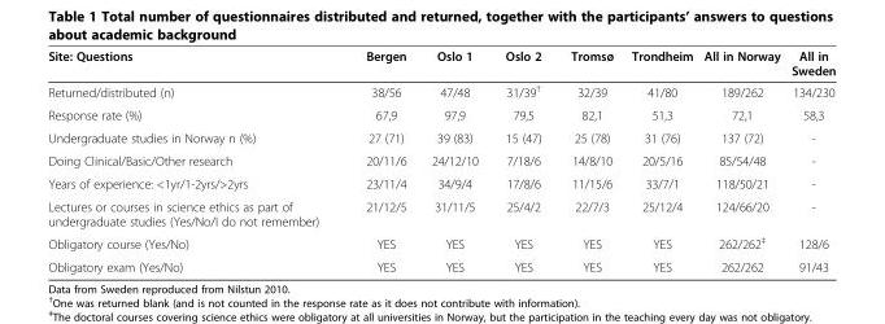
<table><thead><tr><td>Site: Questions</td><td>Bergen</td><td>Oslo 1</td><td>Oslo 2</td><td>Tromsø</td><td>Trondheim</td><td>All in Norway</td><td>All in Sweden</td></tr></thead><tbody><tr><td>Returned/distributed (n)</td><td>38/56</td><td>47/48</td><td>31/39<sup>†</sup></td><td>32/39</td><td>41/80</td><td>189/262</td><td>134/230</td></tr><tr><td>Response rate (%)</td><td>67,9</td><td>97,9</td><td>79,5</td><td>82,1</td><td>51,3</td><td>72,1</td><td>58,3</td></tr><tr><td>Undergraduate studies in Norway n (%)</td><td>27 (71)</td><td>39 (83)</td><td>15 (47)</td><td>25 (78)</td><td>31 (76)</td><td>137 (72)</td><td>-</td></tr><tr><td>Doing Clinical/Basic/Other research</td><td>20/11/6</td><td>24/12/10</td><td>7/18/6</td><td>14/8/10</td><td>20/5/16</td><td>85/54/48</td><td>-</td></tr><tr><td>Years of experience: &lt;1yr/1-2yrs/&gt;2yrs</td><td>23/11/4</td><td>34/9/4</td><td>17/8/6</td><td>11/15/6</td><td>33/7/1</td><td>118/50/21</td><td>-</td></tr><tr><td>Lectures or courses in science ethics as part of undergraduate studies (Yes/No/I do not remember)</td><td>21/12/5</td><td>31/11/5</td><td>25/4/2</td><td>22/7/3</td><td>25/12/4</td><td>124/66/20</td><td>-</td></tr><tr><td>Obligatory course (Yes/No)</td><td>YES</td><td>YES</td><td>YES</td><td>YES</td><td>YES</td><td>262/262<sup>‡</sup></td><td>128/6</td></tr><tr><td>Obligatory exam (Yes/No)</td><td>YES</td><td>YES</td><td>YES</td><td>YES</td><td>YES</td><td>262/262</td><td>91/43</td></tr></tbody></table>